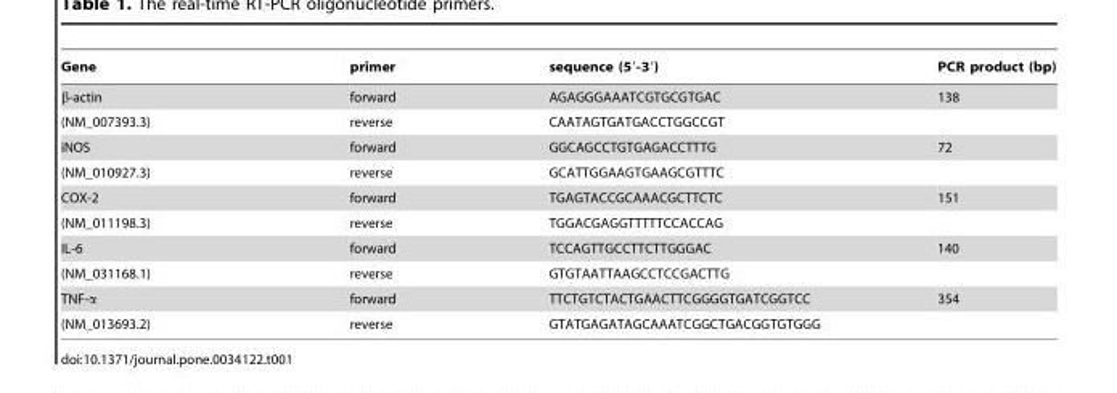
<table><thead><tr><td>Gene</td><td>primer</td><td>sequence (5′-3′)</td><td>PCR product (bp)</td></tr></thead><tbody><tr><td>β-actin</td><td>forward</td><td>AGAGGGAAATCGTGCGTGAC</td><td>138</td></tr><tr><td>(NM_007393.3)</td><td>reverse</td><td>CAATAGTGATGACCTGGCCGT</td><td></td></tr><tr><td>iNOS</td><td>forward</td><td>GGCAGCCTGTGAGACCTTTG</td><td>72</td></tr><tr><td>(NM_010927.3)</td><td>reverse</td><td>GCATTGGAAGTGAAGCGTTTC</td><td></td></tr><tr><td>COX-2</td><td>forward</td><td>TGAGTACCGCAAACGCTTCTC</td><td>151</td></tr><tr><td>(NM_011198.3)</td><td>reverse</td><td>TGGACGAGGTTTTTCCACCAG</td><td></td></tr><tr><td>IL-6</td><td>forward</td><td>TCCAGTTGCCTTCTTGGGAC</td><td>140</td></tr><tr><td>(NM_031168.1)</td><td>reverse</td><td>GTGTAATTAAGCCTCCGACTTG</td><td></td></tr><tr><td>TNF-α</td><td>forward</td><td>TTCTGTCTACTGAACTTCGGGGTGATCGGTCC</td><td>354</td></tr><tr><td>(NM_013693.2)</td><td>reverse</td><td>GTATGAGATAGCAAATCGGCTGACGGTGTGGG</td><td></td></tr></tbody></table>